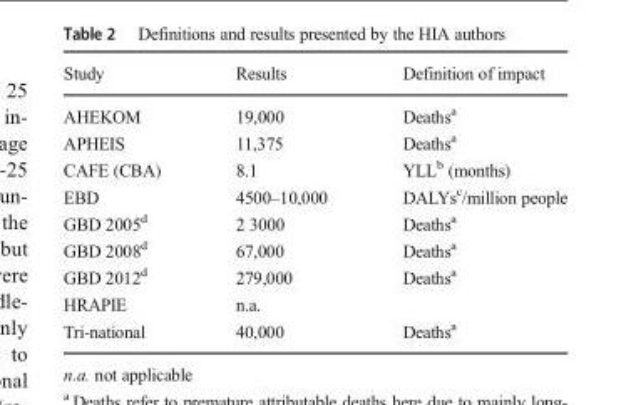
<table><thead><tr><td>Study</td><td>Results</td><td>Definition of impact</td></tr></thead><tbody><tr><td>AHEKOM</td><td>19,000</td><td>Deaths<sup>a</sup></td></tr><tr><td>APHEIS</td><td>11,375</td><td>Deaths<sup>a</sup></td></tr><tr><td>CAFE (CBA)</td><td>8.1</td><td>YLL<sup>b</sup> (months)</td></tr><tr><td>EBD</td><td>4500–10,000</td><td>DALYs<sup>c</sup>/million people</td></tr><tr><td>GBD 2005<sup>d</sup></td><td>2 3000</td><td>Deaths<sup>a</sup></td></tr><tr><td>GBD 2008<sup>d</sup></td><td>67,000</td><td>Deaths<sup>a</sup></td></tr><tr><td>GBD 2012<sup>d</sup></td><td>279,000</td><td>Deaths<sup>a</sup></td></tr><tr><td>HRAPIE</td><td>n.a.</td><td></td></tr><tr><td>Tri-national</td><td>40,000</td><td>Deaths<sup>a</sup></td></tr></tbody></table>